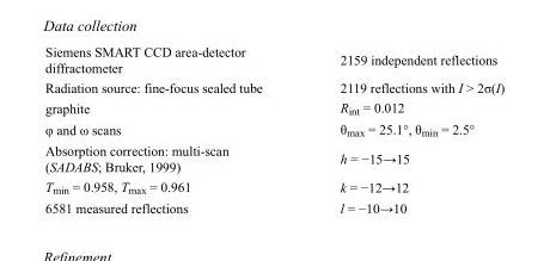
<table><tbody><tr><td>Siemens SMART CCD area-detector diffractometer</td><td>2159 independent reflections</td></tr><tr><td>Radiation source: fine-focus sealed tube</td><td>2119 reflections with I &gt; 2σ(I)</td></tr><tr><td>graphite</td><td>R<sub>int</sub> = 0.012</td></tr><tr><td>φ and ω scans</td><td>θ<sub>max</sub> = 25.1°, θ<sub>min</sub> = 2.5°</td></tr><tr><td>Absorption correction: multi-scan (SADABS; Bruker, 1999)</td><td>h = −15→15</td></tr><tr><td>T<sub>min</sub> = 0.958, T<sub>max</sub> = 0.961</td><td>k = −12→12</td></tr><tr><td>6581 measured reflections</td><td>l = −10→10</td></tr></tbody></table>